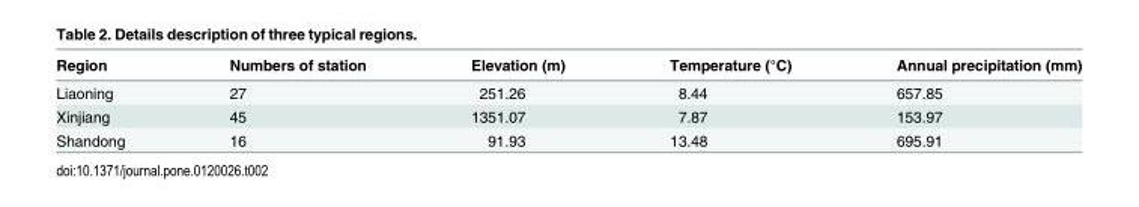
<table><thead><tr><td>Region</td><td>Numbers of station</td><td>Elevation (m)</td><td>Temperature (°C)</td><td>Annual precipitation (mm)</td></tr></thead><tbody><tr><td>Liaoning</td><td>27</td><td>251.26</td><td>8.44</td><td>657.85</td></tr><tr><td>Xinjiang</td><td>45</td><td>1351.07</td><td>7.87</td><td>153.97</td></tr><tr><td>Shandong</td><td>16</td><td>91.93</td><td>13.48</td><td>695.91</td></tr></tbody></table>